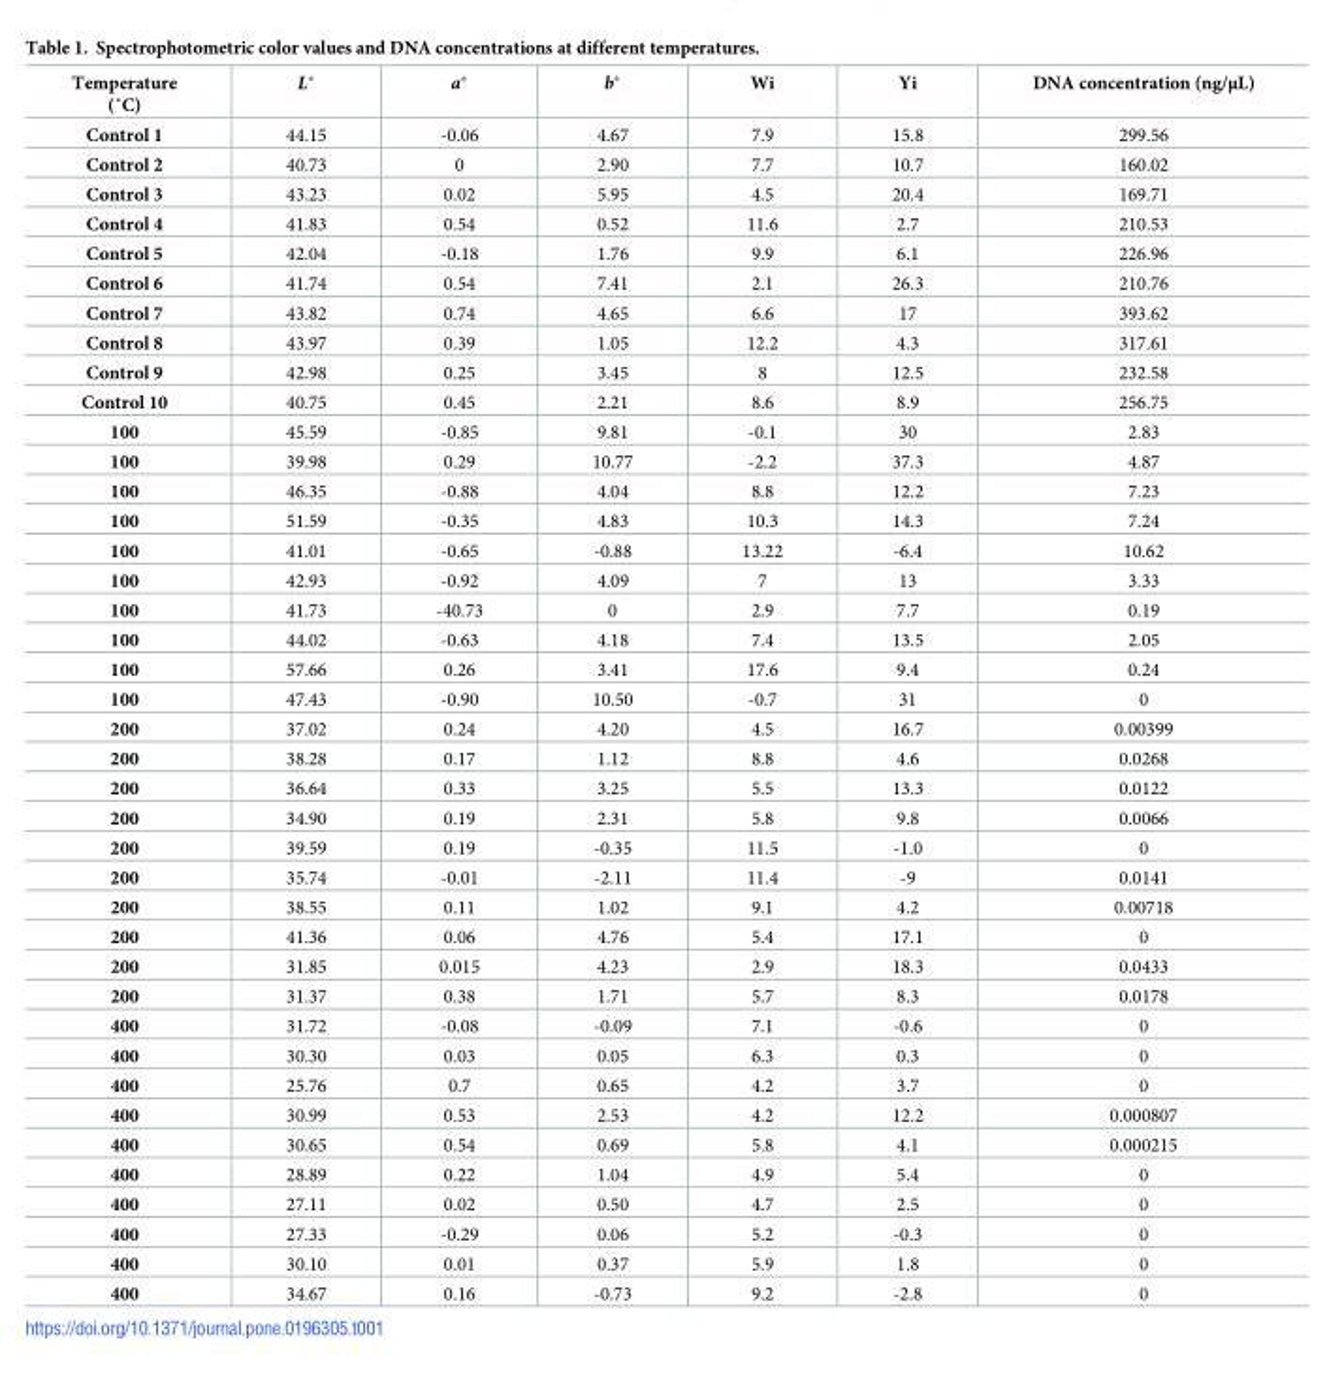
<table><thead><tr><td>Temperature (˚C)</td><td>L*</td><td>a*</td><td>b*</td><td>Wi</td><td>Yi</td><td>DNA concentration (ng/μL)</td></tr></thead><tbody><tr><td>Control 1</td><td>44.15</td><td>-0.06</td><td>4.67</td><td>7.9</td><td>15.8</td><td>299.56</td></tr><tr><td>Control 2</td><td>40.73</td><td>0</td><td>2.90</td><td>7.7</td><td>10.7</td><td>160.02</td></tr><tr><td>Control 3</td><td>43.23</td><td>0.02</td><td>5.95</td><td>4.5</td><td>20.4</td><td>169.71</td></tr><tr><td>Control 4</td><td>41.83</td><td>0.54</td><td>0.52</td><td>11.6</td><td>2.7</td><td>210.53</td></tr><tr><td>Control 5</td><td>42.04</td><td>-0.18</td><td>1.76</td><td>9.9</td><td>6.1</td><td>226.96</td></tr><tr><td>Control 6</td><td>41.74</td><td>0.54</td><td>7.41</td><td>2.1</td><td>26.3</td><td>210.76</td></tr><tr><td>Control 7</td><td>43.82</td><td>0.74</td><td>4.65</td><td>6.6</td><td>17</td><td>393.62</td></tr><tr><td>Control 8</td><td>43.97</td><td>0.39</td><td>1.05</td><td>12.2</td><td>4.3</td><td>317.61</td></tr><tr><td>Control 9</td><td>42.98</td><td>0.25</td><td>3.45</td><td>8</td><td>12.5</td><td>232.58</td></tr><tr><td>Control 10</td><td>40.75</td><td>0.45</td><td>2.21</td><td>8.6</td><td>8.9</td><td>256.75</td></tr><tr><td>100</td><td>45.59</td><td>-0.85</td><td>9.81</td><td>-0.1</td><td>30</td><td>2.83</td></tr><tr><td>100</td><td>39.98</td><td>0.29</td><td>10.77</td><td>-2.2</td><td>37.3</td><td>4.87</td></tr><tr><td>100</td><td>46.35</td><td>-0.88</td><td>4.04</td><td>8.8</td><td>12.2</td><td>7.23</td></tr><tr><td>100</td><td>51.59</td><td>-0.35</td><td>4.83</td><td>10.3</td><td>14.3</td><td>7.24</td></tr><tr><td>100</td><td>41.01</td><td>-0.65</td><td>-0.88</td><td>13.22</td><td>-6.4</td><td>10.62</td></tr><tr><td>100</td><td>42.93</td><td>-0.92</td><td>4.09</td><td>7</td><td>13</td><td>3.33</td></tr><tr><td>100</td><td>41.73</td><td>-40.73</td><td>0</td><td>2.9</td><td>7.7</td><td>0.19</td></tr><tr><td>100</td><td>44.02</td><td>-0.63</td><td>4.18</td><td>7.4</td><td>13.5</td><td>2.05</td></tr><tr><td>100</td><td>57.66</td><td>0.26</td><td>3.41</td><td>17.6</td><td>9.4</td><td>0.24</td></tr><tr><td>100</td><td>47.43</td><td>-0.90</td><td>10.50</td><td>-0.7</td><td>31</td><td>0</td></tr><tr><td>200</td><td>37.02</td><td>0.24</td><td>4.20</td><td>4.5</td><td>16.7</td><td>0.00399</td></tr><tr><td>200</td><td>38.28</td><td>0.17</td><td>1.12</td><td>8.8</td><td>4.6</td><td>0.0268</td></tr><tr><td>200</td><td>36.64</td><td>0.33</td><td>3.25</td><td>5.5</td><td>13.3</td><td>0.0122</td></tr><tr><td>200</td><td>34.90</td><td>0.19</td><td>2.31</td><td>5.8</td><td>9.8</td><td>0.0066</td></tr><tr><td>200</td><td>39.59</td><td>0.19</td><td>-0.35</td><td>11.5</td><td>-1.0</td><td>0</td></tr><tr><td>200</td><td>35.74</td><td>-0.01</td><td>-2.11</td><td>11.4</td><td>-9</td><td>0.0141</td></tr><tr><td>200</td><td>38.55</td><td>0.11</td><td>1.02</td><td>9.1</td><td>4.2</td><td>0.00718</td></tr><tr><td>200</td><td>41.36</td><td>0.06</td><td>4.76</td><td>5.4</td><td>17.1</td><td>0</td></tr><tr><td>200</td><td>31.85</td><td>0.015</td><td>4.23</td><td>2.9</td><td>18.3</td><td>0.0433</td></tr><tr><td>200</td><td>31.37</td><td>0.38</td><td>1.71</td><td>5.7</td><td>8.3</td><td>0.0178</td></tr><tr><td>400</td><td>31.72</td><td>-0.08</td><td>-0.09</td><td>7.1</td><td>-0.6</td><td>0</td></tr><tr><td>400</td><td>30.30</td><td>0.03</td><td>0.05</td><td>6.3</td><td>0.3</td><td>0</td></tr><tr><td>400</td><td>25.76</td><td>0.7</td><td>0.65</td><td>4.2</td><td>3.7</td><td>0</td></tr><tr><td>400</td><td>30.99</td><td>0.53</td><td>2.53</td><td>4.2</td><td>12.2</td><td>0.000807</td></tr><tr><td>400</td><td>30.65</td><td>0.54</td><td>0.69</td><td>5.8</td><td>4.1</td><td>0.000215</td></tr><tr><td>400</td><td>28.89</td><td>0.22</td><td>1.04</td><td>4.9</td><td>5.4</td><td>0</td></tr><tr><td>400</td><td>27.11</td><td>0.02</td><td>0.50</td><td>4.7</td><td>2.5</td><td>0</td></tr><tr><td>400</td><td>27.33</td><td>-0.29</td><td>0.06</td><td>5.2</td><td>-0.3</td><td>0</td></tr><tr><td>400</td><td>30.10</td><td>0.01</td><td>0.37</td><td>5.9</td><td>1.8</td><td>0</td></tr><tr><td>400</td><td>34.67</td><td>0.16</td><td>-0.73</td><td>9.2</td><td>-2.8</td><td>0</td></tr></tbody></table>